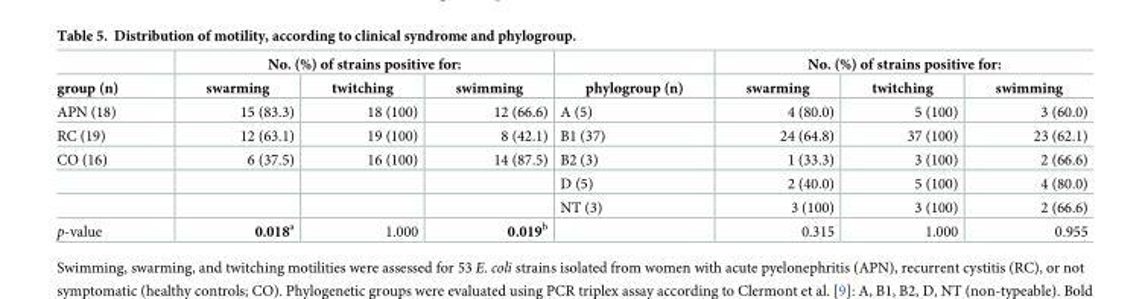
<table><thead><tr><td rowspan="2">group (n)</td><td colspan="3">No. (%) of strains positive for:</td><td rowspan="2">phylogroup (n)</td><td colspan="3">No. (%) of strains positive for:</td></tr><tr><td>swarming</td><td>twitching</td><td>swimming</td><td>swarming</td><td>twitching</td><td>swimming</td></tr></thead><tbody><tr><td>APN (18)</td><td>15 (83.3)</td><td>18 (100)</td><td>12 (66.6)</td><td>A (5)</td><td>4 (80.0)</td><td>5 (100)</td><td>3 (60.0)</td></tr><tr><td>RC (19)</td><td>12 (63.1)</td><td>19 (100)</td><td>8 (42.1)</td><td>B1 (37)</td><td>24 (64.8)</td><td>37 (100)</td><td>23 (62.1)</td></tr><tr><td rowspan="3">CO (16)</td><td>6 (37.5)</td><td>16 (100)</td><td>14 (87.5)</td><td>B2 (3)</td><td>1 (33.3)</td><td>3 (100)</td><td>2 (66.6)</td></tr><tr><td></td><td></td><td></td><td>D (5)</td><td>2 (40.0)</td><td>5 (100)</td><td>4 (80.0)</td></tr><tr><td></td><td></td><td></td><td>NT (3)</td><td>3 (100)</td><td>3 (100)</td><td>2 (66.6)</td></tr><tr><td>p-value</td><td>0.018<sup>a</sup></td><td>1.000</td><td>0.019<sup>b</sup></td><td></td><td>0.315</td><td>1.000</td><td>0.955</td></tr></tbody></table>